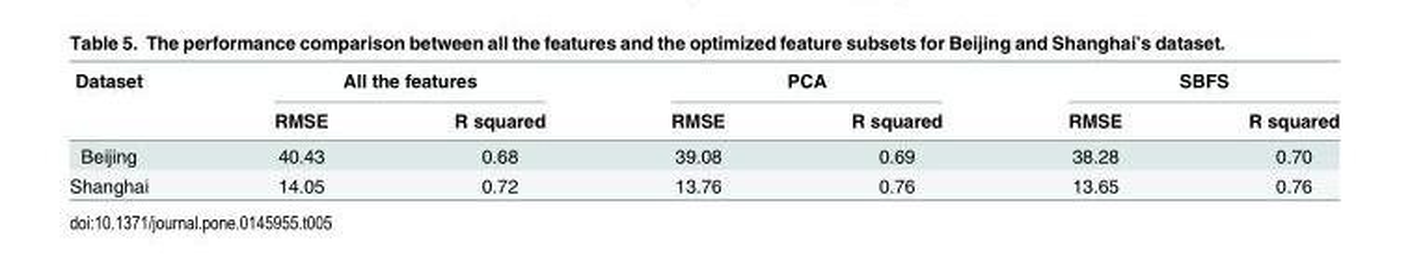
<table><thead><tr><td rowspan="2">Dataset</td><td colspan="2">All the features</td><td colspan="2">PCA</td><td colspan="2">SBFS</td></tr><tr><td>RMSE</td><td>R squared</td><td>RMSE</td><td>R squared</td><td>RMSE</td><td>R squared</td></tr></thead><tbody><tr><td>Beijing</td><td>40.43</td><td>0.68</td><td>39.08</td><td>0.69</td><td>38.28</td><td>0.70</td></tr><tr><td>Shanghai</td><td>14.05</td><td>0.72</td><td>13.76</td><td>0.76</td><td>13.65</td><td>0.76</td></tr></tbody></table>